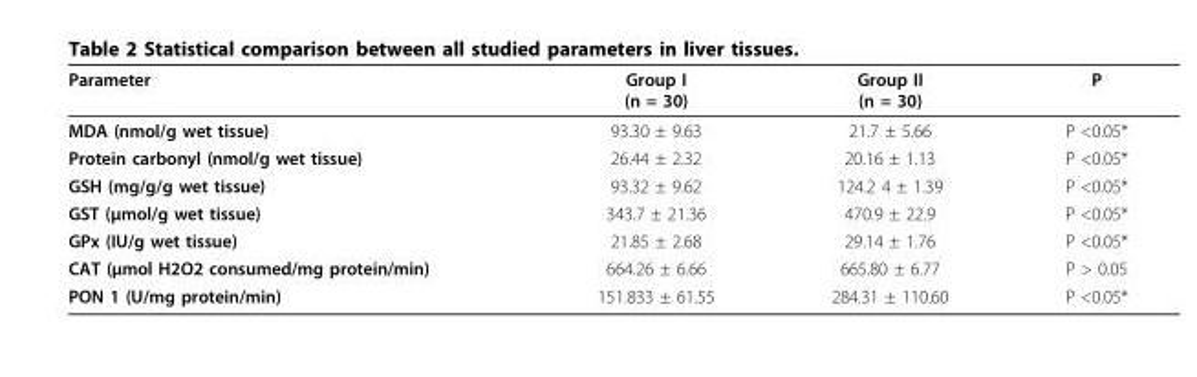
<table><thead><tr><td>Parameter</td><td>Group I (n = 30)</td><td>Group II (n = 30)</td><td>P</td></tr></thead><tbody><tr><td>MDA (nmol/g wet tissue)</td><td>93.30 ± 9.63</td><td>21.7 ± 5.66</td><td>P &lt;0.05*</td></tr><tr><td>Protein carbonyl (nmol/g wet tissue)</td><td>26.44 ± 2.32</td><td>20.16 ± 1.13</td><td>P &lt;0.05*</td></tr><tr><td>GSH (mg/g/g wet tissue)</td><td>93.32 ± 9.62</td><td>124.2 4 ± 1.39</td><td>P &lt;0.05*</td></tr><tr><td>GST (μmol/g wet tissue)</td><td>343.7 ± 21.36</td><td>470.9 ± 22.9</td><td>P &lt;0.05*</td></tr><tr><td>GPx (IU/g wet tissue)</td><td>21.85 ± 2.68</td><td>29.14 ± 1.76</td><td>P &lt;0.05*</td></tr><tr><td>CAT (μmol H2O2 consumed/mg protein/min)</td><td>664.26 ± 6.66</td><td>665.80 ± 6.77</td><td>P &gt; 0.05</td></tr><tr><td>PON 1 (U/mg protein/min)</td><td>151.833 ± 61.55</td><td>284.31 ± 110.60</td><td>P &lt;0.05*</td></tr></tbody></table>